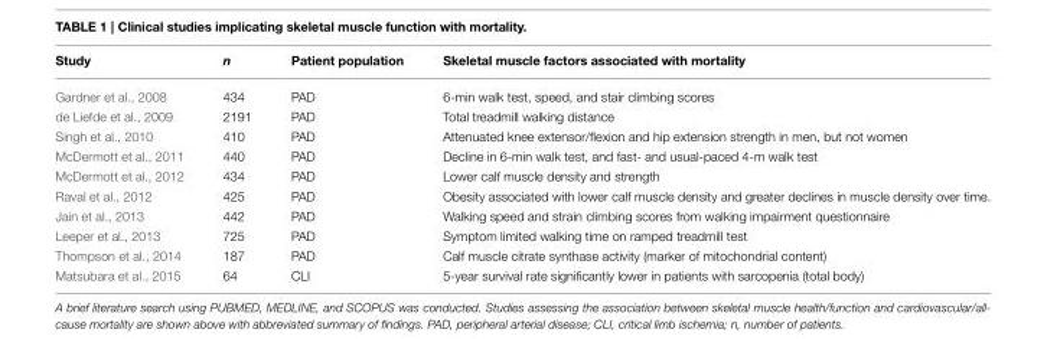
<table><thead><tr><td>Study</td><td>n</td><td>Patient population</td><td>Skeletal muscle factors associated with mortality</td></tr></thead><tbody><tr><td>Gardner et al., 2008</td><td>434</td><td>PAD</td><td>6-min walk test, speed, and stair climbing scores</td></tr><tr><td>de Liefde et al., 2009</td><td>2191</td><td>PAD</td><td>Total treadmill walking distance</td></tr><tr><td>Singh et al., 2010</td><td>410</td><td>PAD</td><td>Attenuated knee extensor/flexion and hip extension strength in men, but not women</td></tr><tr><td>McDermott et al., 2011</td><td>440</td><td>PAD</td><td>Decline in 6-min walk test, and fast- and usual-paced 4-m walk test</td></tr><tr><td>McDermott et al., 2012</td><td>434</td><td>PAD</td><td>Lower calf muscle density and strength</td></tr><tr><td>Raval et al., 2012</td><td>425</td><td>PAD</td><td>Obesity associated with lower calf muscle density and greater declines in muscle density over time.</td></tr><tr><td>Jain et al., 2013</td><td>442</td><td>PAD</td><td>Walking speed and strain climbing scores from walking impairment questionnaire</td></tr><tr><td>Leeper et al., 2013</td><td>725</td><td>PAD</td><td>Symptom limited walking time on ramped treadmill test</td></tr><tr><td>Thompson et al., 2014</td><td>187</td><td>PAD</td><td>Calf muscle citrate synthase activity (marker of mitochondrial content)</td></tr><tr><td>Matsubara et al., 2015</td><td>64</td><td>CLI</td><td>5-year survival rate significantly lower in patients with sarcopenia (total body)</td></tr></tbody></table>